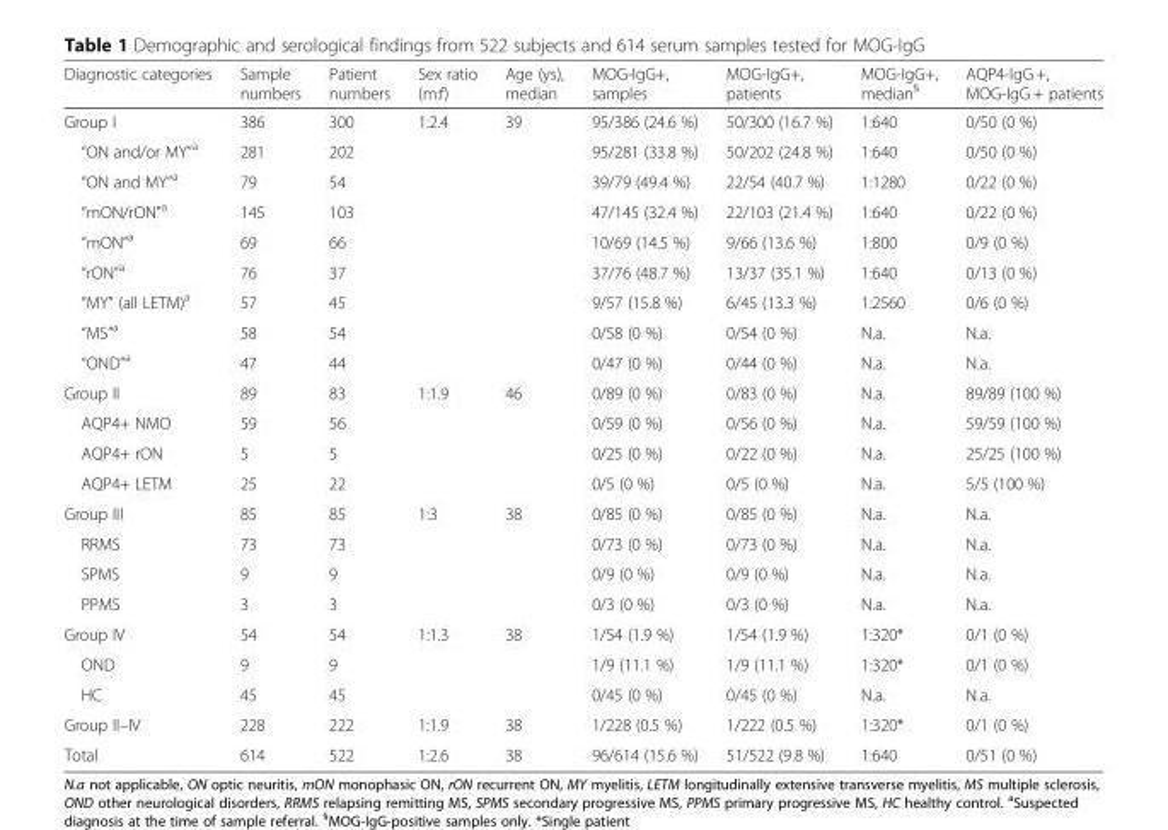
<table><thead><tr><td>Diagnostic categories</td><td>Sample numbers</td><td>Patient numbers</td><td>Sex ratio (m:f)</td><td>Age (ys), median</td><td>MOG-IgG+, samples</td><td>MOG-IgG+, patients</td><td>MOG-IgG+, median<sup>§</sup></td><td>AQP4-IgG +, MOG-IgG + patients</td></tr></thead><tbody><tr><td>Group I</td><td>386</td><td>300</td><td>1:2.4</td><td>39</td><td>95/386 (24.6 %)</td><td>50/300 (16.7 %)</td><td>1:640</td><td>0/50 (0 %)</td></tr><tr><td>“ON and/or MY”<sup>a</sup></td><td>281</td><td>202</td><td></td><td></td><td>95/281 (33.8 %)</td><td>50/202 (24.8 %)</td><td>1:640</td><td>0/50 (0 %)</td></tr><tr><td>“ON and MY”<sup>a</sup></td><td>79</td><td>54</td><td></td><td></td><td>39/79 (49.4 %)</td><td>22/54 (40.7 %)</td><td>1:1280</td><td>0/22 (0 %)</td></tr><tr><td>“mON/rON”<sup>a</sup></td><td>145</td><td>103</td><td></td><td></td><td>47/145 (32.4 %)</td><td>22/103 (21.4 %)</td><td>1:640</td><td>0/22 (0 %)</td></tr><tr><td>“mON”<sup>a</sup></td><td>69</td><td>66</td><td></td><td></td><td>10/69 (14.5 %)</td><td>9/66 (13.6 %)</td><td>1:800</td><td>0/9 (0 %)</td></tr><tr><td>“rON”<sup>a</sup></td><td>76</td><td>37</td><td></td><td></td><td>37/76 (48.7 %)</td><td>13/37 (35.1 %)</td><td>1:640</td><td>0/13 (0 %)</td></tr><tr><td>“MY” (all LETM)<sup>a</sup></td><td>57</td><td>45</td><td></td><td></td><td>9/57 (15.8 %)</td><td>6/45 (13.3 %)</td><td>1:2560</td><td>0/6 (0 %)</td></tr><tr><td>“MS”<sup>a</sup></td><td>58</td><td>54</td><td></td><td></td><td>0/58 (0 %)</td><td>0/54 (0 %)</td><td>N.a.</td><td>N.a.</td></tr><tr><td>“OND”<sup>a</sup></td><td>47</td><td>44</td><td></td><td></td><td>0/47 (0 %)</td><td>0/44 (0 %)</td><td>N.a.</td><td>N.a.</td></tr><tr><td>Group II</td><td>89</td><td>83</td><td>1:1.9</td><td>46</td><td>0/89 (0 %)</td><td>0/83 (0 %)</td><td>N.a.</td><td>89/89 (100 %)</td></tr><tr><td>AQP4+ NMO</td><td>59</td><td>56</td><td></td><td></td><td>0/59 (0 %)</td><td>0/56 (0 %)</td><td>N.a.</td><td>59/59 (100 %)</td></tr><tr><td>AQP4+ rON</td><td>5</td><td>5</td><td></td><td></td><td>0/25 (0 %)</td><td>0/22 (0 %)</td><td>N.a.</td><td>25/25 (100 %)</td></tr><tr><td>AQP4+ LETM</td><td>25</td><td>22</td><td></td><td></td><td>0/5 (0 %)</td><td>0/5 (0 %)</td><td>N.a.</td><td>5/5 (100 %)</td></tr><tr><td>Group III</td><td>85</td><td>85</td><td>1:3</td><td>38</td><td>0/85 (0 %)</td><td>0/85 (0 %)</td><td>N.a.</td><td>N.a.</td></tr><tr><td>RRMS</td><td>73</td><td>73</td><td></td><td></td><td>0/73 (0 %)</td><td>0/73 (0 %)</td><td>N.a.</td><td>N.a.</td></tr><tr><td>SPMS</td><td>9</td><td>9</td><td></td><td></td><td>0/9 (0 %)</td><td>0/9 (0 %)</td><td>N.a.</td><td>N.a.</td></tr><tr><td>PPMS</td><td>3</td><td>3</td><td></td><td></td><td>0/3 (0 %)</td><td>0/3 (0 %)</td><td>N.a.</td><td>N.a.</td></tr><tr><td>Group IV</td><td>54</td><td>54</td><td>1:1.3</td><td>38</td><td>1/54 (1.9 %)</td><td>1/54 (1.9 %)</td><td>1:320*</td><td>0/1 (0 %)</td></tr><tr><td>OND</td><td>9</td><td>9</td><td></td><td></td><td>1/9 (11.1 %)</td><td>1/9 (11.1 %)</td><td>1:320*</td><td>0/1 (0 %)</td></tr><tr><td>HC</td><td>45</td><td>45</td><td></td><td></td><td>0/45 (0 %)</td><td>0/45 (0 %)</td><td>N.a.</td><td>N.a.</td></tr><tr><td>Group II–IV</td><td>228</td><td>222</td><td>1:1.9</td><td>38</td><td>1/228 (0.5 %)</td><td>1/222 (0.5 %)</td><td>1:320*</td><td>0/1 (0 %)</td></tr><tr><td>Total</td><td>614</td><td>522</td><td>1:2.6</td><td>38</td><td>96/614 (15.6 %)</td><td>51/522 (9.8 %)</td><td>1:640</td><td>0/51 (0 %)</td></tr></tbody></table>